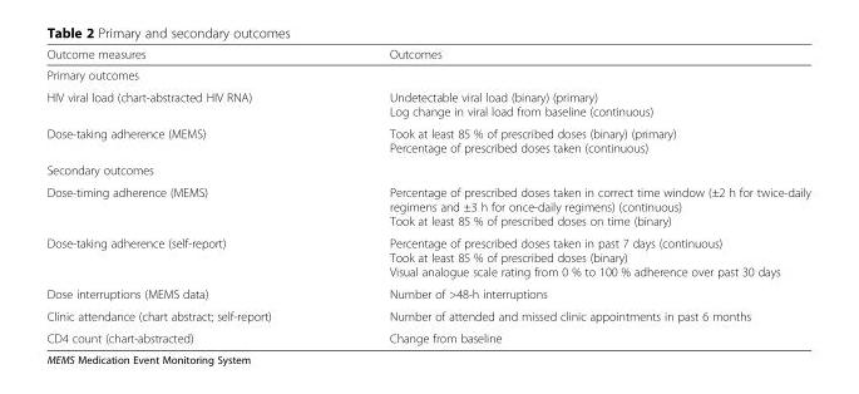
<table><thead><tr><td>Outcome measures</td><td>Outcomes</td></tr></thead><tbody><tr><td colspan="2">Primary outcomes</td></tr><tr><td>HIV viral load (chart-abstracted HIV RNA)</td><td>Undetectable viral load (binary) (primary) Log change in viral load from baseline (continuous)</td></tr><tr><td>Dose-taking adherence (MEMS)</td><td>Took at least 85 % of prescribed doses (binary) (primary) Percentage of prescribed doses taken (continuous)</td></tr><tr><td colspan="2">Secondary outcomes</td></tr><tr><td>Dose-timing adherence (MEMS)</td><td>Percentage of prescribed doses taken in correct time window (±2 h for twice-daily regimens and ±3 h for once-daily regimens) (continuous) Took at least 85 % of prescribed doses on time (binary)</td></tr><tr><td>Dose-taking adherence (self-report)</td><td>Percentage of prescribed doses taken in past 7 days (continuous) Took at least 85 % of prescribed doses (binary) Visual analogue scale rating from 0 % to 100 % adherence over past 30 days</td></tr><tr><td>Dose interruptions (MEMS data)</td><td>Number of &gt;48-h interruptions</td></tr><tr><td>Clinic attendance (chart abstract; self-report)</td><td>Number of attended and missed clinic appointments in past 6 months</td></tr><tr><td>CD4 count (chart-abstracted)</td><td>Change from baseline</td></tr></tbody></table>